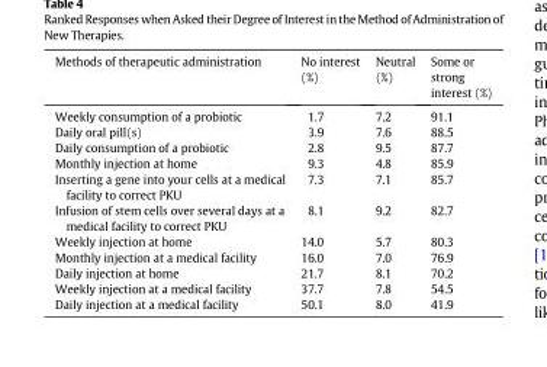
<table><thead><tr><td>Methods of therapeutic administration</td><td>No interest (%)</td><td>Neutral (%)</td><td>Some or strong interest (%)</td></tr></thead><tbody><tr><td>Weekly consumption of a probiotic</td><td>1.7</td><td>7.2</td><td>91.1</td></tr><tr><td>Daily oral pill(s)</td><td>3.9</td><td>7.6</td><td>88.5</td></tr><tr><td>Daily consumption of a probiotic</td><td>2.8</td><td>9.5</td><td>87.7</td></tr><tr><td>Monthly injection at home</td><td>9.3</td><td>4.8</td><td>85.9</td></tr><tr><td>Inserting a gene into your cells at a medical facility to correct PKU</td><td>7.3</td><td>7.1</td><td>85.7</td></tr><tr><td>Infusion of stem cells over several days at a medical facility to correct PKU</td><td>8.1</td><td>9.2</td><td>82.7</td></tr><tr><td>Weekly injection at home</td><td>14.0</td><td>5.7</td><td>80.3</td></tr><tr><td>Monthly injection at a medical facility</td><td>16.0</td><td>7.0</td><td>76.9</td></tr><tr><td>Daily injection at home</td><td>21.7</td><td>8.1</td><td>70.2</td></tr><tr><td>Weekly injection at a medical facility</td><td>37.7</td><td>7.8</td><td>54.5</td></tr><tr><td>Daily injection at a medical facility</td><td>50.1</td><td>8.0</td><td>41.9</td></tr></tbody></table>